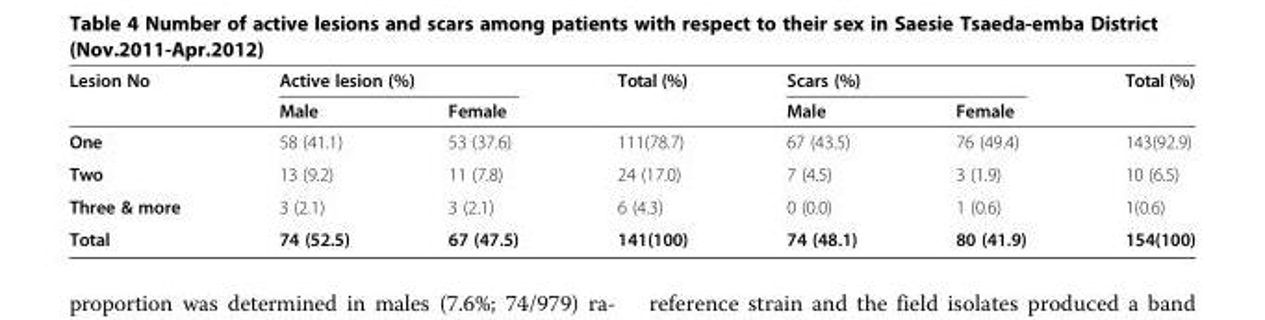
<table><thead><tr><td rowspan="2">Lesion No</td><td colspan="2">Active lesion (%)</td><td rowspan="2">Total (%)</td><td colspan="2">Scars (%)</td><td rowspan="2">Total (%)</td></tr><tr><td>Male</td><td>Female</td><td>Male</td><td>Female</td></tr></thead><tbody><tr><td>One</td><td>58 (41.1)</td><td>53 (37.6)</td><td>111(78.7)</td><td>67 (43.5)</td><td>76 (49.4)</td><td>143(92.9)</td></tr><tr><td>Two</td><td>13 (9.2)</td><td>11 (7.8)</td><td>24 (17.0)</td><td>7 (4.5)</td><td>3 (1.9)</td><td>10 (6.5)</td></tr><tr><td>Three &amp; more</td><td>3 (2.1)</td><td>3 (2.1)</td><td>6 (4.3)</td><td>0 (0.0)</td><td>1 (0.6)</td><td>1(0.6)</td></tr><tr><td>Total</td><td>74 (52.5)</td><td>67 (47.5)</td><td>141(100)</td><td>74 (48.1)</td><td>80 (41.9)</td><td>154(100)</td></tr></tbody></table>